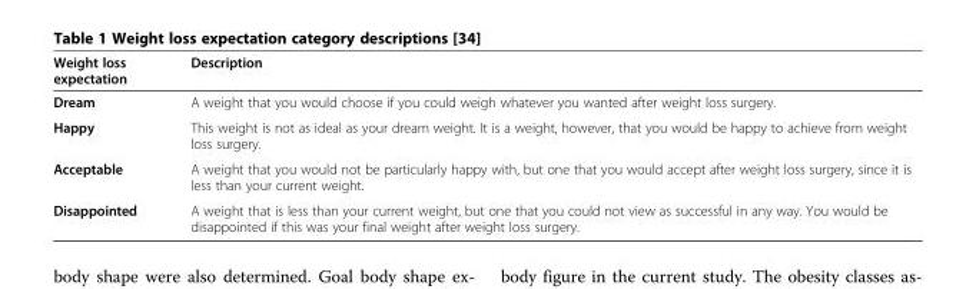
<table><thead><tr><td>Weight loss expectation</td><td>Description</td></tr></thead><tbody><tr><td>Dream</td><td>A weight that you would choose if you could weigh whatever you wanted after weight loss surgery.</td></tr><tr><td>Happy</td><td>This weight is not as ideal as your dream weight. It is a weight, however, that you would be happy to achieve from weight loss surgery.</td></tr><tr><td>Acceptable</td><td>A weight that you would not be particularly happy with, but one that you would accept after weight loss surgery, since it is less than your current weight.</td></tr><tr><td>Disappointed</td><td>A weight that is less than your current weight, but one that you could not view as successful in any way. You would be disappointed if this was your final weight after weight loss surgery.</td></tr></tbody></table>